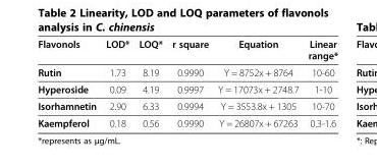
<table><thead><tr><td>Flavonols</td><td>LOD*</td><td>LOQ*</td><td>r square</td><td>Equation</td><td>Linear range*</td></tr></thead><tbody><tr><td>Rutin</td><td>1.73</td><td>8.19</td><td>0.9990</td><td>Y = 8752x + 8764</td><td>10-60</td></tr><tr><td>Hyperoside</td><td>0.09</td><td>4.19</td><td>0.9997</td><td>Y = 17073x + 2748.7</td><td>1-10</td></tr><tr><td>Isorhamnetin</td><td>2.90</td><td>6.33</td><td>0.9994</td><td>Y = 3553.8x + 1305</td><td>10-70</td></tr><tr><td>Kaempferol</td><td>0.18</td><td>0.56</td><td>0.9990</td><td>Y = 26807x + 67263</td><td>0.3-1.6</td></tr></tbody></table>